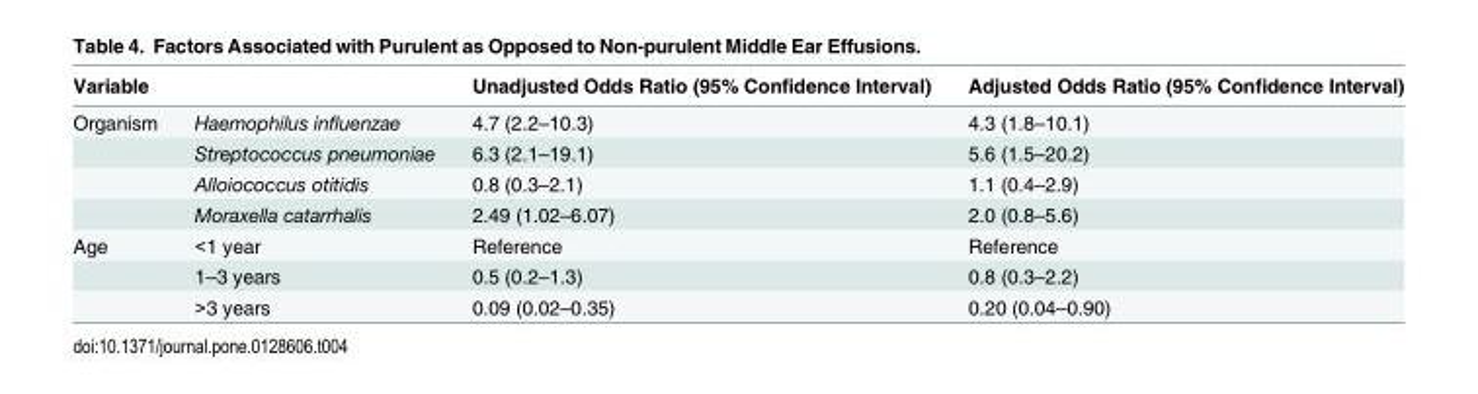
<table><thead><tr><td>Variable</td><td></td><td>Unadjusted Odds Ratio (95% Confidence Interval)</td><td>Adjusted Odds Ratio (95% Confidence Interval)</td></tr></thead><tbody><tr><td rowspan="4">Organism</td><td>Haemophilus influenzae</td><td>4.7 (2.2–10.3)</td><td>4.3 (1.8–10.1)</td></tr><tr><td>Streptococcus pneumoniae</td><td>6.3 (2.1–19.1)</td><td>5.6 (1.5–20.2)</td></tr><tr><td>Alloiococcus otitidis</td><td>0.8 (0.3–2.1)</td><td>1.1 (0.4–2.9)</td></tr><tr><td>Moraxella catarrhalis</td><td>2.49 (1.02–6.07)</td><td>2.0 (0.8–5.6)</td></tr><tr><td rowspan="3">Age</td><td>&lt;1 year</td><td>Reference</td><td>Reference</td></tr><tr><td>1–3 years</td><td>0.5 (0.2–1.3)</td><td>0.8 (0.3–2.2)</td></tr><tr><td>&gt;3 years</td><td>0.09 (0.02–0.35)</td><td>0.20 (0.04–0.90)</td></tr></tbody></table>